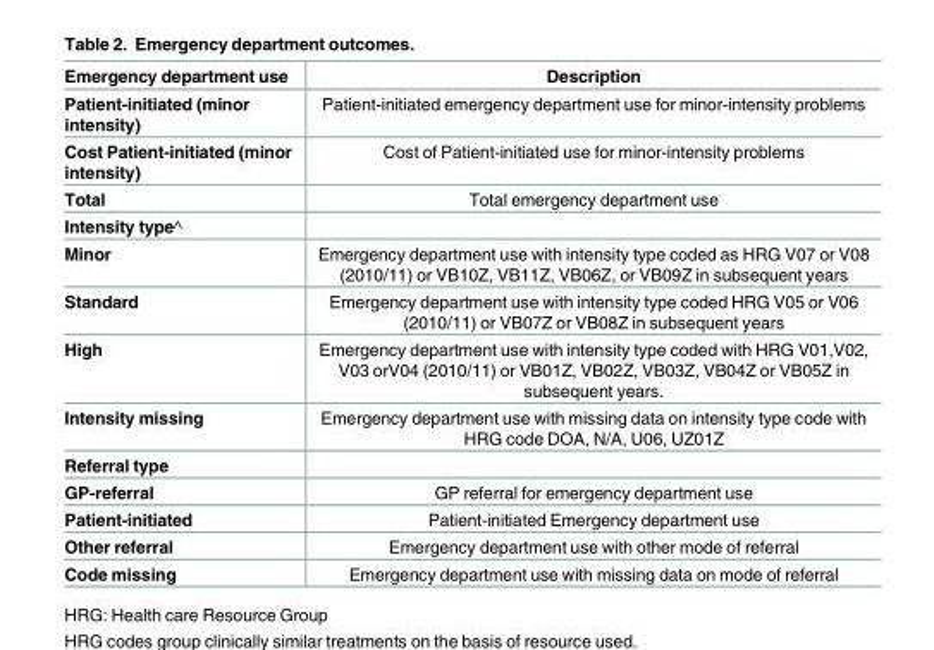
<table><thead><tr><td>Emergency department use</td><td>Description</td></tr></thead><tbody><tr><td>Patient-initiated (minor intensity)</td><td>Patient-initiated emergency department use for minor-intensity problems</td></tr><tr><td>Cost Patient-initiated (minor intensity)</td><td>Cost of Patient-initiated use for minor-intensity problems</td></tr><tr><td>Total</td><td>Total emergency department use</td></tr><tr><td colspan="2">Intensity type^</td></tr><tr><td>Minor</td><td>Emergency department use with intensity type coded as HRG V07 or V08 (2010/11) or VB10Z, VB11Z, VB06Z, or VB09Z in subsequent years</td></tr><tr><td>Standard</td><td>Emergency department use with intensity type coded HRG V05 or V06 (2010/11) or VB07Z or VB08Z in subsequent years</td></tr><tr><td>High</td><td>Emergency department use with intensity type coded with HRG V01,V02, V03 orV04 (2010/11) or VB01Z, VB02Z, VB03Z, VB04Z or VB05Z in subsequent years.</td></tr><tr><td>Intensity missing</td><td>Emergency department use with missing data on intensity type code with HRG code DOA, N/A, U06, UZ01Z</td></tr><tr><td colspan="2">Referral type</td></tr><tr><td>GP-referral</td><td>GP referral for emergency department use</td></tr><tr><td>Patient-initiated</td><td>Patient-initiated Emergency department use</td></tr><tr><td>Other referral</td><td>Emergency department use with other mode of referral</td></tr><tr><td>Code missing</td><td>Emergency department use with missing data on mode of referral</td></tr></tbody></table>